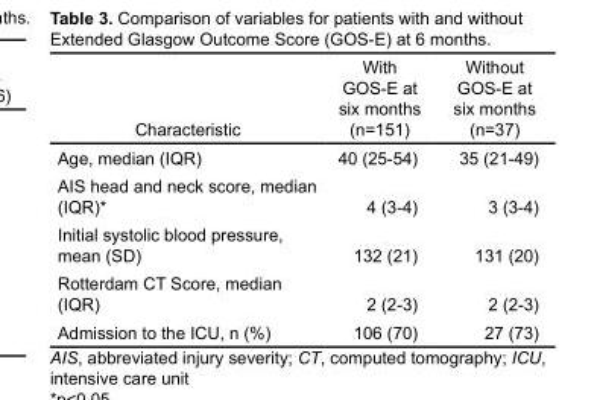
<table><thead><tr><td>Characteristic</td><td>With GOS-E at six months (n=151)</td><td>Without GOS-E at six months (n=37)</td></tr></thead><tbody><tr><td>Age, median (IQR)</td><td>40 (25-54)</td><td>35 (21-49)</td></tr><tr><td>AIS head and neck score, median (IQR)*</td><td>4 (3-4)</td><td>3 (3-4)</td></tr><tr><td>Initial systolic blood pressure, mean (SD)</td><td>132 (21)</td><td>131 (20)</td></tr><tr><td>Rotterdam CT Score, median (IQR)</td><td>2 (2-3)</td><td>2 (2-3)</td></tr><tr><td>Admission to the ICU, n (%)</td><td>106 (70)</td><td>27 (73)</td></tr></tbody></table>